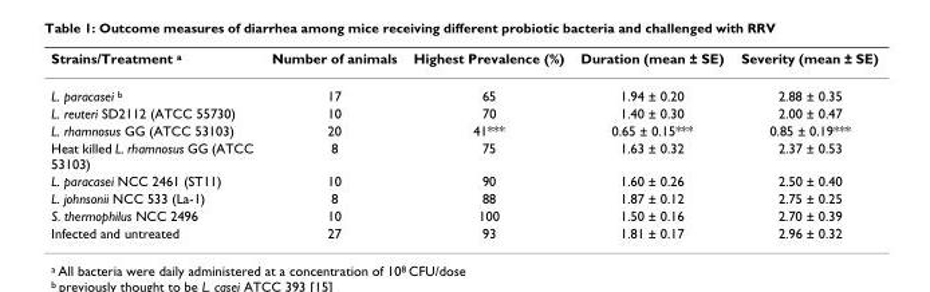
<table><thead><tr><td>Strains/Treatment <sup>a</sup></td><td>Number of animals</td><td>Highest Prevalence (%)</td><td>Duration (mean ± SE)</td><td>Severity (mean ± SE)</td></tr></thead><tbody><tr><td>L. paracasei <sup>b</sup></td><td>17</td><td>65</td><td>1.94 ± 0.20</td><td>2.88 ± 0.35</td></tr><tr><td>L. reuteri SD2112 (ATCC 55730)</td><td>10</td><td>70</td><td>1.40 ± 0.30</td><td>2.00 ± 0.47</td></tr><tr><td>L. rhamnosus GG (ATCC 53103)</td><td>20</td><td>41***</td><td>0.65 ± 0.15***</td><td>0.85 ± 0.19***</td></tr><tr><td>Heat killed L. rhamnosus GG (ATCC 53103)</td><td>8</td><td>75</td><td>1.63 ± 0.32</td><td>2.37 ± 0.53</td></tr><tr><td>L. paracasei NCC 2461 (ST11)</td><td>10</td><td>90</td><td>1.60 ± 0.26</td><td>2.50 ± 0.40</td></tr><tr><td>L. johnsonii NCC 533 (La-1)</td><td>8</td><td>88</td><td>1.87 ± 0.12</td><td>2.75 ± 0.25</td></tr><tr><td>S. thermophilus NCC 2496</td><td>10</td><td>100</td><td>1.50 ± 0.16</td><td>2.70 ± 0.39</td></tr><tr><td>Infected and untreated</td><td>27</td><td>93</td><td>1.81 ± 0.17</td><td>2.96 ± 0.32</td></tr></tbody></table>